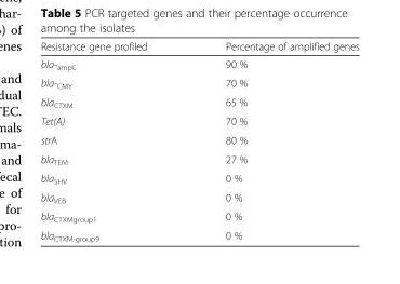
<table><thead><tr><td>Resistance gene profiled</td><td>Percentage of amplified genes</td></tr></thead><tbody><tr><td>bla-<sub>ampC</sub></td><td>90 %</td></tr><tr><td>bla-<sub>CMY</sub></td><td>70 %</td></tr><tr><td>bla<sub>CTXM</sub></td><td>65 %</td></tr><tr><td>Tet(A)</td><td>70 %</td></tr><tr><td>strA</td><td>80 %</td></tr><tr><td>bla<sub>TEM</sub></td><td>27 %</td></tr><tr><td>bla<sub>SHV</sub></td><td>0 %</td></tr><tr><td>bla<sub>VEB</sub></td><td>0 %</td></tr><tr><td>bla<sub>CTXMgroup1</sub></td><td>0 %</td></tr><tr><td>bla<sub>CTXM-group9</sub></td><td>0 %</td></tr></tbody></table>